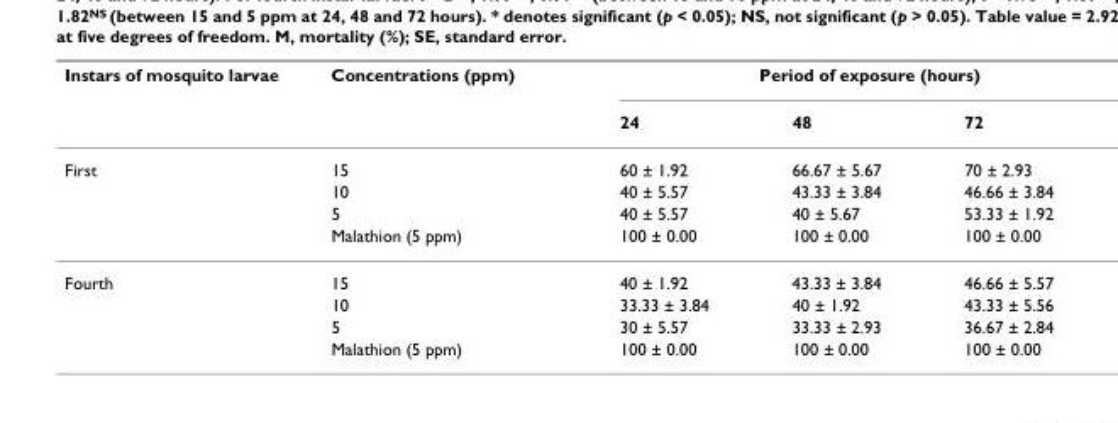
<table><thead><tr><td rowspan="2">Instars of mosquito larvae</td><td rowspan="2">Concentrations (ppm)</td><td colspan="3">Period of exposure (hours)</td></tr><tr><td>24</td><td>48</td><td>72</td></tr></thead><tbody><tr><td rowspan="4">First</td><td>15</td><td>60 ± 1.92</td><td>66.67 ± 5.67</td><td>70 ± 2.93</td></tr><tr><td>10</td><td>40 ± 5.57</td><td>43.33 ± 3.84</td><td>46.66 ± 3.84</td></tr><tr><td>5</td><td>40 ± 5.57</td><td>40 ± 5.67</td><td>53.33 ± 1.92</td></tr><tr><td>Malathion (5 ppm)</td><td>100 ± 0.00</td><td>100 ± 0.00</td><td>100 ± 0.00</td></tr><tr><td rowspan="4">Fourth</td><td>15</td><td>40 ± 1.92</td><td>43.33 ± 3.84</td><td>46.66 ± 5.57</td></tr><tr><td>10</td><td>33.33 ± 3.84</td><td>40 ± 1.92</td><td>43.33 ± 5.56</td></tr><tr><td>5</td><td>30 ± 5.57</td><td>33.33 ± 2.93</td><td>36.67 ± 2.84</td></tr><tr><td>Malathion (5 ppm)</td><td>100 ± 0.00</td><td>100 ± 0.00</td><td>100 ± 0.00</td></tr></tbody></table>